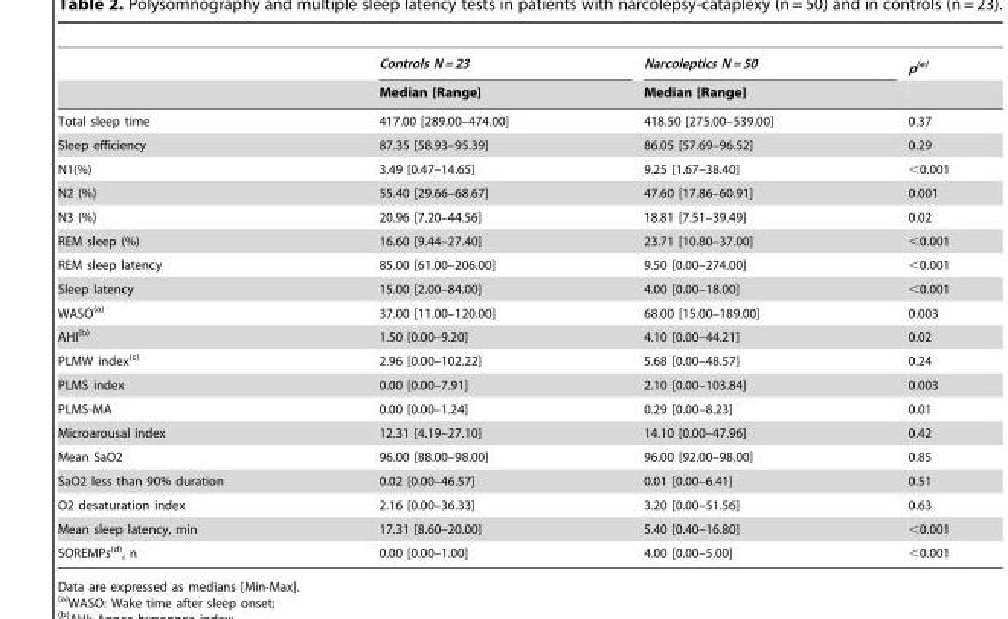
<table><thead><tr><td rowspan="2"></td><td rowspan="2">Controls N = 23 Median [Range]</td><td rowspan="2">Narcoleptics N = 50 Median [Range]</td><td rowspan="2">p(e)</td></tr><tr></tr></thead><tbody><tr><td>Total sleep time</td><td>417.00 [289.00–474.00]</td><td>418.50 [275.00–539.00]</td><td>0.37</td></tr><tr><td>Sleep efficiency</td><td>87.35 [58.93–95.39]</td><td>86.05 [57.69–96.52]</td><td>0.29</td></tr><tr><td>N1(%)</td><td>3.49 [0.47–14.65]</td><td>9.25 [1.67–38.40]</td><td>&lt;0.001</td></tr><tr><td>N2 (%)</td><td>55.40 [29.66–68.67]</td><td>47.60 [17.86–60.91]</td><td>0.001</td></tr><tr><td>N3 (%)</td><td>20.96 [7.20–44.56]</td><td>18.81 [7.51–39.49]</td><td>0.02</td></tr><tr><td>REM sleep (%)</td><td>16.60 [9.44–27.40]</td><td>23.71 [10.80–37.00]</td><td>&lt;0.001</td></tr><tr><td>REM sleep latency</td><td>85.00 [61.00–206.00]</td><td>9.50 [0.00–274.00]</td><td>&lt;0.001</td></tr><tr><td>Sleep latency</td><td>15.00 [2.00–84.00]</td><td>4.00 [0.00–18.00]</td><td>&lt;0.001</td></tr><tr><td>WASO(a)</td><td>37.00 [11.00–120.00]</td><td>68.00 [15.00–189.00]</td><td>0.003</td></tr><tr><td>AHI(b)</td><td>1.50 [0.00–9.20]</td><td>4.10 [0.00–44.21]</td><td>0.02</td></tr><tr><td>PLMW index(c)</td><td>2.96 [0.00–102.22]</td><td>5.68 [0.00–48.57]</td><td>0.24</td></tr><tr><td>PLMS index</td><td>0.00 [0.00–7.91]</td><td>2.10 [0.00–103.84]</td><td>0.003</td></tr><tr><td>PLMS-MA</td><td>0.00 [0.00–1.24]</td><td>0.29 [0.00–8.23]</td><td>0.01</td></tr><tr><td>Microarousal index</td><td>12.31 [4.19–27.10]</td><td>14.10 [0.00–47.96]</td><td>0.42</td></tr><tr><td>Mean SaO2</td><td>96.00 [88.00–98.00]</td><td>96.00 [92.00–98.00]</td><td>0.85</td></tr><tr><td>SaO2 less than 90% duration</td><td>0.02 [0.00–46.57]</td><td>0.01 [0.00–6.41]</td><td>0.51</td></tr><tr><td>O2 desaturation index</td><td>2.16 [0.00–36.33]</td><td>3.20 [0.00–51.56]</td><td>0.63</td></tr><tr><td>Mean sleep latency, min</td><td>17.31 [8.60–20.00]</td><td>5.40 [0.40–16.80]</td><td>&lt;0.001</td></tr><tr><td>SOREMPs(d), n</td><td>0.00 [0.00–1.00]</td><td>4.00 [0.00–5.00]</td><td>&lt;0.001</td></tr></tbody></table>